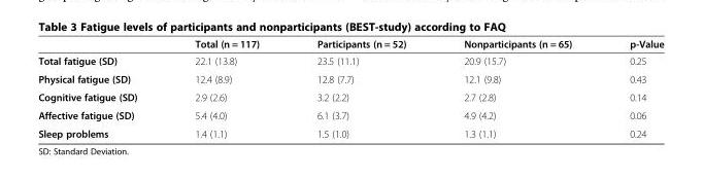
<table><thead><tr><td></td><td>Total (n = 117)</td><td>Participants (n = 52)</td><td>Nonparticipants (n = 65)</td><td>p-Value</td></tr></thead><tbody><tr><td>Total fatigue (SD)</td><td>22.1 (13.8)</td><td>23.5 (11.1)</td><td>20.9 (15.7)</td><td>0.25</td></tr><tr><td>Physical fatigue (SD)</td><td>12.4 (8.9)</td><td>12.8 (7.7)</td><td>12.1 (9.8)</td><td>0.43</td></tr><tr><td>Cognitive fatigue (SD)</td><td>2.9 (2.6)</td><td>3.2 (2.2)</td><td>2.7 (2.8)</td><td>0.14</td></tr><tr><td>Affective fatigue (SD)</td><td>5.4 (4.0)</td><td>6.1 (3.7)</td><td>4.9 (4.2)</td><td>0.06</td></tr><tr><td>Sleep problems</td><td>1.4 (1.1)</td><td>1.5 (1.0)</td><td>1.3 (1.1)</td><td>0.24</td></tr></tbody></table>